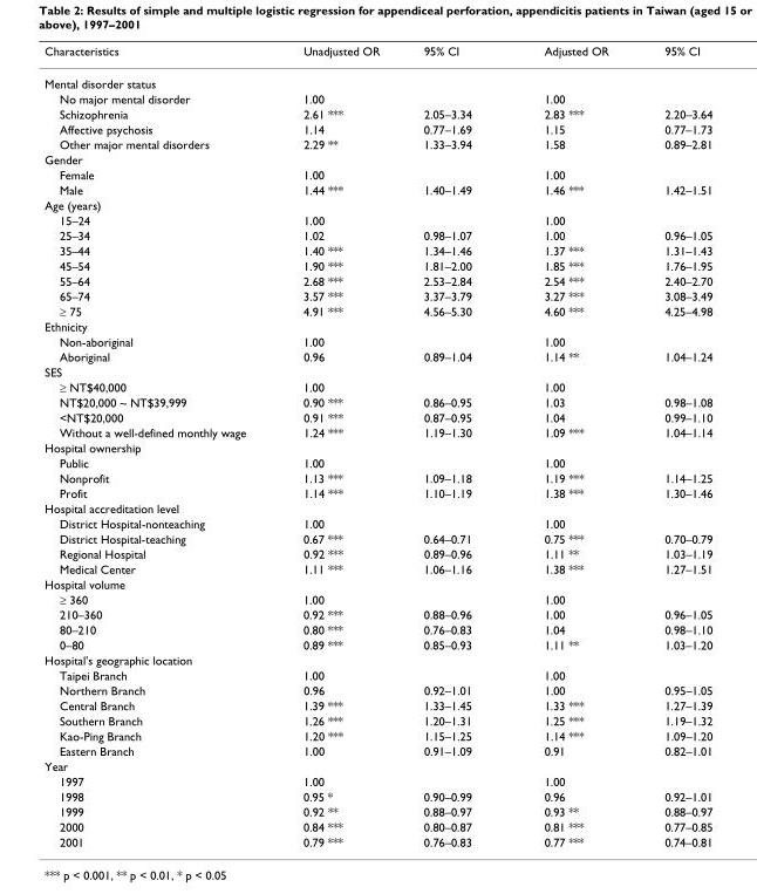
<table><thead><tr><td>Characteristics</td><td>Unadjusted OR</td><td>95% CI</td><td>Adjusted OR</td><td>95% CI</td></tr></thead><tbody><tr><td colspan="5">Mental disorder status</td></tr><tr><td>No major mental disorder</td><td>1.00</td><td></td><td>1.00</td><td></td></tr><tr><td>Schizophrenia</td><td>2.61 ***</td><td>2.05–3.34</td><td>2.83 ***</td><td>2.20–3.64</td></tr><tr><td>Affective psychosis</td><td>1.14</td><td>0.77–1.69</td><td>1.15</td><td>0.77–1.73</td></tr><tr><td>Other major mental disorders</td><td>2.29 **</td><td>1.33–3.94</td><td>1.58</td><td>0.89–2.81</td></tr><tr><td colspan="5">Gender</td></tr><tr><td>Female</td><td>1.00</td><td></td><td>1.00</td><td></td></tr><tr><td>Male</td><td>1.44 ***</td><td>1.40–1.49</td><td>1.46 ***</td><td>1.42–1.51</td></tr><tr><td colspan="5">Age (years)</td></tr><tr><td>15–24</td><td>1.00</td><td></td><td>1.00</td><td></td></tr><tr><td>25–34</td><td>1.02</td><td>0.98–1.07</td><td>1.00</td><td>0.96–1.05</td></tr><tr><td>35–44</td><td>1.40 ***</td><td>1.34–1.46</td><td>1.37 ***</td><td>1.31–1.43</td></tr><tr><td>45–54</td><td>1.90 ***</td><td>1.81–2.00</td><td>1.85 ***</td><td>1.76–1.95</td></tr><tr><td>55–64</td><td>2.68 ***</td><td>2.53–2.84</td><td>2.54 ***</td><td>2.40–2.70</td></tr><tr><td>65–74</td><td>3.57 ***</td><td>3.37–3.79</td><td>3.27 ***</td><td>3.08–3.49</td></tr><tr><td>≥ 75</td><td>4.91 ***</td><td>4.56–5.30</td><td>4.60 ***</td><td>4.25–4.98</td></tr><tr><td colspan="5">Ethnicity</td></tr><tr><td>Non-aboriginal</td><td>1.00</td><td></td><td>1.00</td><td></td></tr><tr><td>Aboriginal</td><td>0.96</td><td>0.89–1.04</td><td>1.14 **</td><td>1.04–1.24</td></tr><tr><td colspan="5">SES</td></tr><tr><td>≥ NT$40,000</td><td>1.00</td><td></td><td>1.00</td><td></td></tr><tr><td>NT$20,000 ~ NT$39,999</td><td>0.90 ***</td><td>0.86–0.95</td><td>1.03</td><td>0.98–1.08</td></tr><tr><td>&lt;NT$20,000</td><td>0.91 ***</td><td>0.87–0.95</td><td>1.04</td><td>0.99–1.10</td></tr><tr><td>Without a well-defined monthly wage</td><td>1.24 ***</td><td>1.19–1.30</td><td>1.09 ***</td><td>1.04–1.14</td></tr><tr><td colspan="5">Hospital ownership</td></tr><tr><td>Public</td><td>1.00</td><td></td><td>1.00</td><td></td></tr><tr><td>Nonprofit</td><td>1.13 ***</td><td>1.09–1.18</td><td>1.19 ***</td><td>1.14–1.25</td></tr><tr><td>Profit</td><td>1.14 ***</td><td>1.10–1.19</td><td>1.38 ***</td><td>1.30–1.46</td></tr><tr><td colspan="5">Hospital accreditation level</td></tr><tr><td>District Hospital-nonteaching</td><td>1.00</td><td></td><td>1.00</td><td></td></tr><tr><td>District Hospital-teaching</td><td>0.67 ***</td><td>0.64–0.71</td><td>0.75 ***</td><td>0.70–0.79</td></tr><tr><td>Regional Hospital</td><td>0.92 ***</td><td>0.89–0.96</td><td>1.11 **</td><td>1.03–1.19</td></tr><tr><td>Medical Center</td><td>1.11 ***</td><td>1.06–1.16</td><td>1.38 ***</td><td>1.27–1.51</td></tr><tr><td colspan="5">Hospital volume</td></tr><tr><td>≥ 360</td><td>1.00</td><td></td><td>1.00</td><td></td></tr><tr><td>210–360</td><td>0.92 ***</td><td>0.88–0.96</td><td>1.00</td><td>0.96–1.05</td></tr><tr><td>80–210</td><td>0.80 ***</td><td>0.76–0.83</td><td>1.04</td><td>0.98–1.10</td></tr><tr><td>0–80</td><td>0.89 ***</td><td>0.85–0.93</td><td>1.11 **</td><td>1.03–1.20</td></tr><tr><td colspan="5">Hospital&#x27;s geographic location</td></tr><tr><td>Taipei Branch</td><td>1.00</td><td></td><td>1.00</td><td></td></tr><tr><td>Northern Branch</td><td>0.96</td><td>0.92–1.01</td><td>1.00</td><td>0.95–1.05</td></tr><tr><td>Central Branch</td><td>1.39 ***</td><td>1.33–1.45</td><td>1.33 ***</td><td>1.27–1.39</td></tr><tr><td>Southern Branch</td><td>1.26 ***</td><td>1.20–1.31</td><td>1.25 ***</td><td>1.19–1.32</td></tr><tr><td>Kao-Ping Branch</td><td>1.20 ***</td><td>1.15–1.25</td><td>1.14 ***</td><td>1.09–1.20</td></tr><tr><td>Eastern Branch</td><td>1.00</td><td>0.91–1.09</td><td>0.91</td><td>0.82–1.01</td></tr><tr><td colspan="5">Year</td></tr><tr><td>1997</td><td>1.00</td><td></td><td>1.00</td><td></td></tr><tr><td>1998</td><td>0.95 *</td><td>0.90–0.99</td><td>0.96</td><td>0.92–1.01</td></tr><tr><td>1999</td><td>0.92 **</td><td>0.88–0.97</td><td>0.93 **</td><td>0.88–0.97</td></tr><tr><td>2000</td><td>0.84 ***</td><td>0.80–0.87</td><td>0.81 ***</td><td>0.77–0.85</td></tr><tr><td>2001</td><td>0.79 ***</td><td>0.76–0.83</td><td>0.77 ***</td><td>0.74–0.81</td></tr></tbody></table>